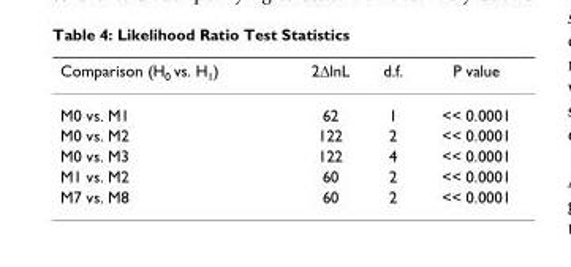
<table><thead><tr><td>Comparison (H0 vs. H1)</td><td>2∆lnL</td><td>d.f.</td><td>P value</td></tr></thead><tbody><tr><td>M0 vs. M1</td><td>62</td><td>1</td><td>&lt;&lt; 0.0001</td></tr><tr><td>M0 vs. M2</td><td>122</td><td>2</td><td>&lt;&lt; 0.0001</td></tr><tr><td>M0 vs. M3</td><td>122</td><td>4</td><td>&lt;&lt; 0.0001</td></tr><tr><td>M1 vs. M2</td><td>60</td><td>2</td><td>&lt;&lt; 0.0001</td></tr><tr><td>M7 vs. M8</td><td>60</td><td>2</td><td>&lt;&lt; 0.0001</td></tr></tbody></table>